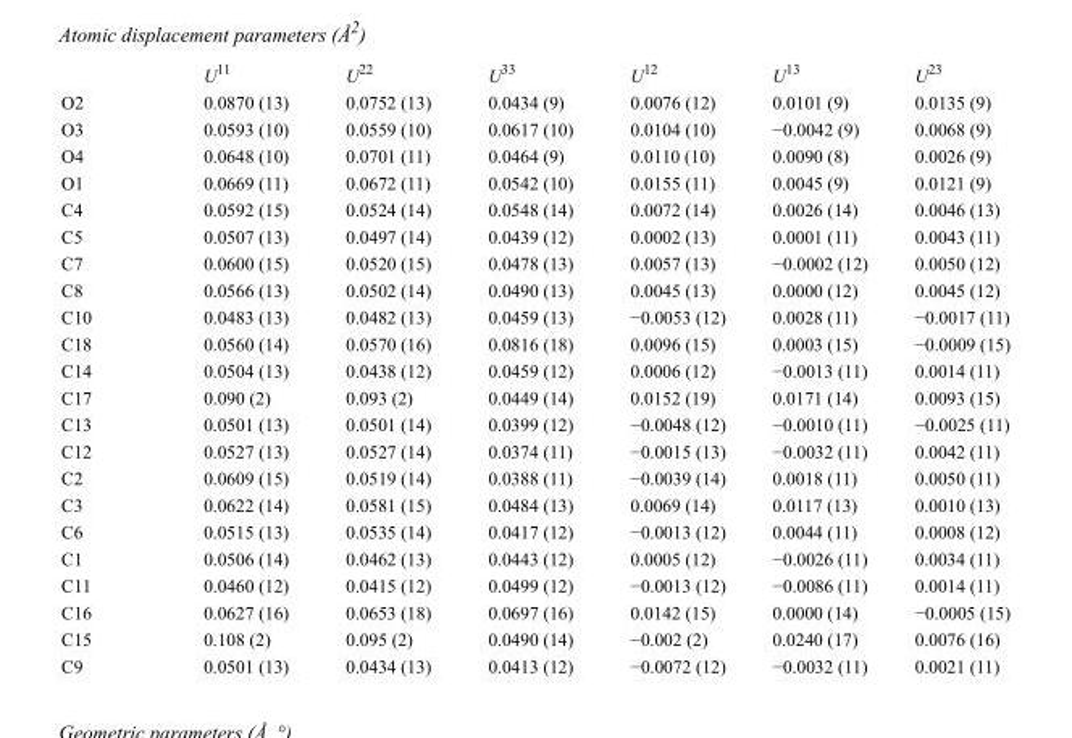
<table><thead><tr><td></td><td>U<sup>11</sup></td><td>U<sup>22</sup></td><td>U<sup>33</sup></td><td>U<sup>12</sup></td><td>U<sup>13</sup></td><td>U<sup>23</sup></td></tr></thead><tbody><tr><td>O2</td><td>0.0870 (13)</td><td>0.0752 (13)</td><td>0.0434 (9)</td><td>0.0076 (12)</td><td>0.0101 (9)</td><td>0.0135 (9)</td></tr><tr><td>O3</td><td>0.0593 (10)</td><td>0.0559 (10)</td><td>0.0617 (10)</td><td>0.0104 (10)</td><td>−0.0042 (9)</td><td>0.0068 (9)</td></tr><tr><td>O4</td><td>0.0648 (10)</td><td>0.0701 (11)</td><td>0.0464 (9)</td><td>0.0110 (10)</td><td>0.0090 (8)</td><td>0.0026 (9)</td></tr><tr><td>O1</td><td>0.0669 (11)</td><td>0.0672 (11)</td><td>0.0542 (10)</td><td>0.0155 (11)</td><td>0.0045 (9)</td><td>0.0121 (9)</td></tr><tr><td>C4</td><td>0.0592 (15)</td><td>0.0524 (14)</td><td>0.0548 (14)</td><td>0.0072 (14)</td><td>0.0026 (14)</td><td>0.0046 (13)</td></tr><tr><td>C5</td><td>0.0507 (13)</td><td>0.0497 (14)</td><td>0.0439 (12)</td><td>0.0002 (13)</td><td>0.0001 (11)</td><td>0.0043 (11)</td></tr><tr><td>C7</td><td>0.0600 (15)</td><td>0.0520 (15)</td><td>0.0478 (13)</td><td>0.0057 (13)</td><td>−0.0002 (12)</td><td>0.0050 (12)</td></tr><tr><td>C8</td><td>0.0566 (13)</td><td>0.0502 (14)</td><td>0.0490 (13)</td><td>0.0045 (13)</td><td>0.0000 (12)</td><td>0.0045 (12)</td></tr><tr><td>C10</td><td>0.0483 (13)</td><td>0.0482 (13)</td><td>0.0459 (13)</td><td>−0.0053 (12)</td><td>0.0028 (11)</td><td>−0.0017 (11)</td></tr><tr><td>C18</td><td>0.0560 (14)</td><td>0.0570 (16)</td><td>0.0816 (18)</td><td>0.0096 (15)</td><td>0.0003 (15)</td><td>−0.0009 (15)</td></tr><tr><td>C14</td><td>0.0504 (13)</td><td>0.0438 (12)</td><td>0.0459 (12)</td><td>0.0006 (12)</td><td>−0.0013 (11)</td><td>0.0014 (11)</td></tr><tr><td>C17</td><td>0.090 (2)</td><td>0.093 (2)</td><td>0.0449 (14)</td><td>0.0152 (19)</td><td>0.0171 (14)</td><td>0.0093 (15)</td></tr><tr><td>C13</td><td>0.0501 (13)</td><td>0.0501 (14)</td><td>0.0399 (12)</td><td>−0.0048 (12)</td><td>−0.0010 (11)</td><td>−0.0025 (11)</td></tr><tr><td>C12</td><td>0.0527 (13)</td><td>0.0527 (14)</td><td>0.0374 (11)</td><td>−0.0015 (13)</td><td>−0.0032 (11)</td><td>0.0042 (11)</td></tr><tr><td>C2</td><td>0.0609 (15)</td><td>0.0519 (14)</td><td>0.0388 (11)</td><td>−0.0039 (14)</td><td>0.0018 (11)</td><td>0.0050 (11)</td></tr><tr><td>C3</td><td>0.0622 (14)</td><td>0.0581 (15)</td><td>0.0484 (13)</td><td>0.0069 (14)</td><td>0.0117 (13)</td><td>0.0010 (13)</td></tr><tr><td>C6</td><td>0.0515 (13)</td><td>0.0535 (14)</td><td>0.0417 (12)</td><td>−0.0013 (12)</td><td>0.0044 (11)</td><td>0.0008 (12)</td></tr><tr><td>C1</td><td>0.0506 (14)</td><td>0.0462 (13)</td><td>0.0443 (12)</td><td>0.0005 (12)</td><td>−0.0026 (11)</td><td>0.0034 (11)</td></tr><tr><td>C11</td><td>0.0460 (12)</td><td>0.0415 (12)</td><td>0.0499 (12)</td><td>−0.0013 (12)</td><td>−0.0086 (11)</td><td>0.0014 (11)</td></tr><tr><td>C16</td><td>0.0627 (16)</td><td>0.0653 (18)</td><td>0.0697 (16)</td><td>0.0142 (15)</td><td>0.0000 (14)</td><td>−0.0005 (15)</td></tr><tr><td>C15</td><td>0.108 (2)</td><td>0.095 (2)</td><td>0.0490 (14)</td><td>−0.002 (2)</td><td>0.0240 (17)</td><td>0.0076 (16)</td></tr><tr><td>C9</td><td>0.0501 (13)</td><td>0.0434 (13)</td><td>0.0413 (12)</td><td>−0.0072 (12)</td><td>−0.0032 (11)</td><td>0.0021 (11)</td></tr></tbody></table>